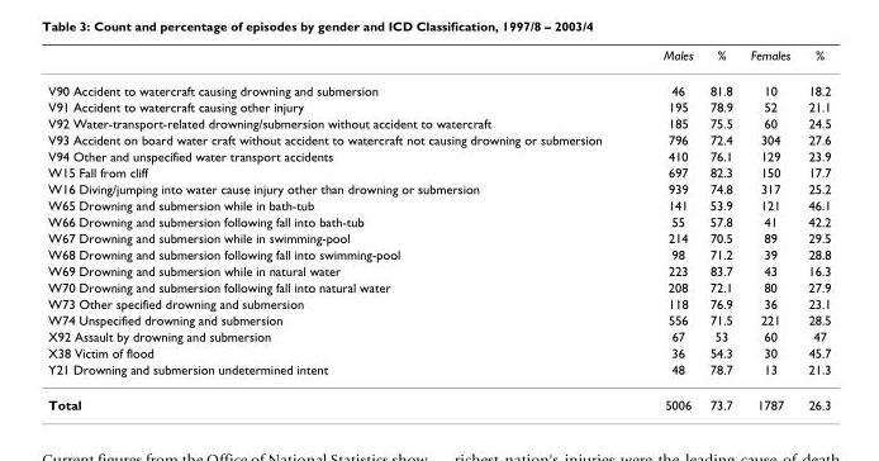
<table><thead><tr><td></td><td>Males</td><td>%</td><td>Females</td><td>%</td></tr></thead><tbody><tr><td>V90 Accident to watercraft causing drowning and submersion</td><td>46</td><td>81.8</td><td>10</td><td>18.2</td></tr><tr><td>V91 Accident to watercraft causing other injury</td><td>195</td><td>78.9</td><td>52</td><td>21.1</td></tr><tr><td>V92 Water-transport-related drowning/submersion without accident to watercraft</td><td>185</td><td>75.5</td><td>60</td><td>24.5</td></tr><tr><td>V93 Accident on board water craft without accident to watercraft not causing drowning or submersion</td><td>796</td><td>72.4</td><td>304</td><td>27.6</td></tr><tr><td>V94 Other and unspecified water transport accidents</td><td>410</td><td>76.1</td><td>129</td><td>23.9</td></tr><tr><td>W15 Fall from cliff</td><td>697</td><td>82.3</td><td>150</td><td>17.7</td></tr><tr><td>W16 Diving/jumping into water cause injury other than drowning or submersion</td><td>939</td><td>74.8</td><td>317</td><td>25.2</td></tr><tr><td>W65 Drowning and submersion while in bath-tub</td><td>141</td><td>53.9</td><td>121</td><td>46.1</td></tr><tr><td>W66 Drowning and submersion following fall into bath-tub</td><td>55</td><td>57.8</td><td>41</td><td>42.2</td></tr><tr><td>W67 Drowning and submersion while in swimming-pool</td><td>214</td><td>70.5</td><td>89</td><td>29.5</td></tr><tr><td>W68 Drowning and submersion following fall into swimming-pool</td><td>98</td><td>71.2</td><td>39</td><td>28.8</td></tr><tr><td>W69 Drowning and submersion while in natural water</td><td>223</td><td>83.7</td><td>43</td><td>16.3</td></tr><tr><td>W70 Drowning and submersion following fall into natural water</td><td>208</td><td>72.1</td><td>80</td><td>27.9</td></tr><tr><td>W73 Other specified drowning and submersion</td><td>118</td><td>76.9</td><td>36</td><td>23.1</td></tr><tr><td>W74 Unspecified drowning and submersion</td><td>556</td><td>71.5</td><td>221</td><td>28.5</td></tr><tr><td>X92 Assault by drowning and submersion</td><td>67</td><td>53</td><td>60</td><td>47</td></tr><tr><td>X38 Victim of flood</td><td>36</td><td>54.3</td><td>30</td><td>45.7</td></tr><tr><td>Y21 Drowning and submersion undetermined intent</td><td>48</td><td>78.7</td><td>13</td><td>21.3</td></tr><tr><td>Total</td><td>5006</td><td>73.7</td><td>1787</td><td>26.3</td></tr></tbody></table>